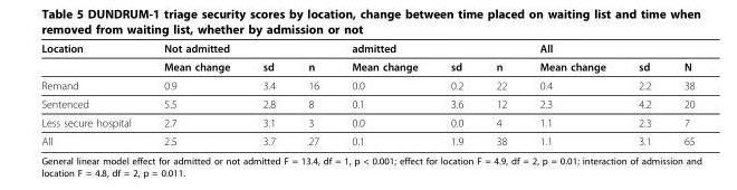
<table><thead><tr><td rowspan="2">Location</td><td colspan="3">Not admitted</td><td colspan="3">admitted</td><td colspan="3">All</td></tr><tr><td>Mean change</td><td>sd</td><td>n</td><td>Mean change</td><td>sd</td><td>n</td><td>Mean change</td><td>sd</td><td>N</td></tr></thead><tbody><tr><td>Remand</td><td>0.9</td><td>3.4</td><td>16</td><td>0.0</td><td>0.2</td><td>22</td><td>0.4</td><td>2.2</td><td>38</td></tr><tr><td>Sentenced</td><td>5.5</td><td>2.8</td><td>8</td><td>0.1</td><td>3.6</td><td>12</td><td>2.3</td><td>4.2</td><td>20</td></tr><tr><td>Less secure hospital</td><td>2.7</td><td>3.1</td><td>3</td><td>0.0</td><td>0.0</td><td>4</td><td>1.1</td><td>2.3</td><td>7</td></tr><tr><td>All</td><td>2.5</td><td>3.7</td><td>27</td><td>0.1</td><td>1.9</td><td>38</td><td>1.1</td><td>3.1</td><td>65</td></tr></tbody></table>